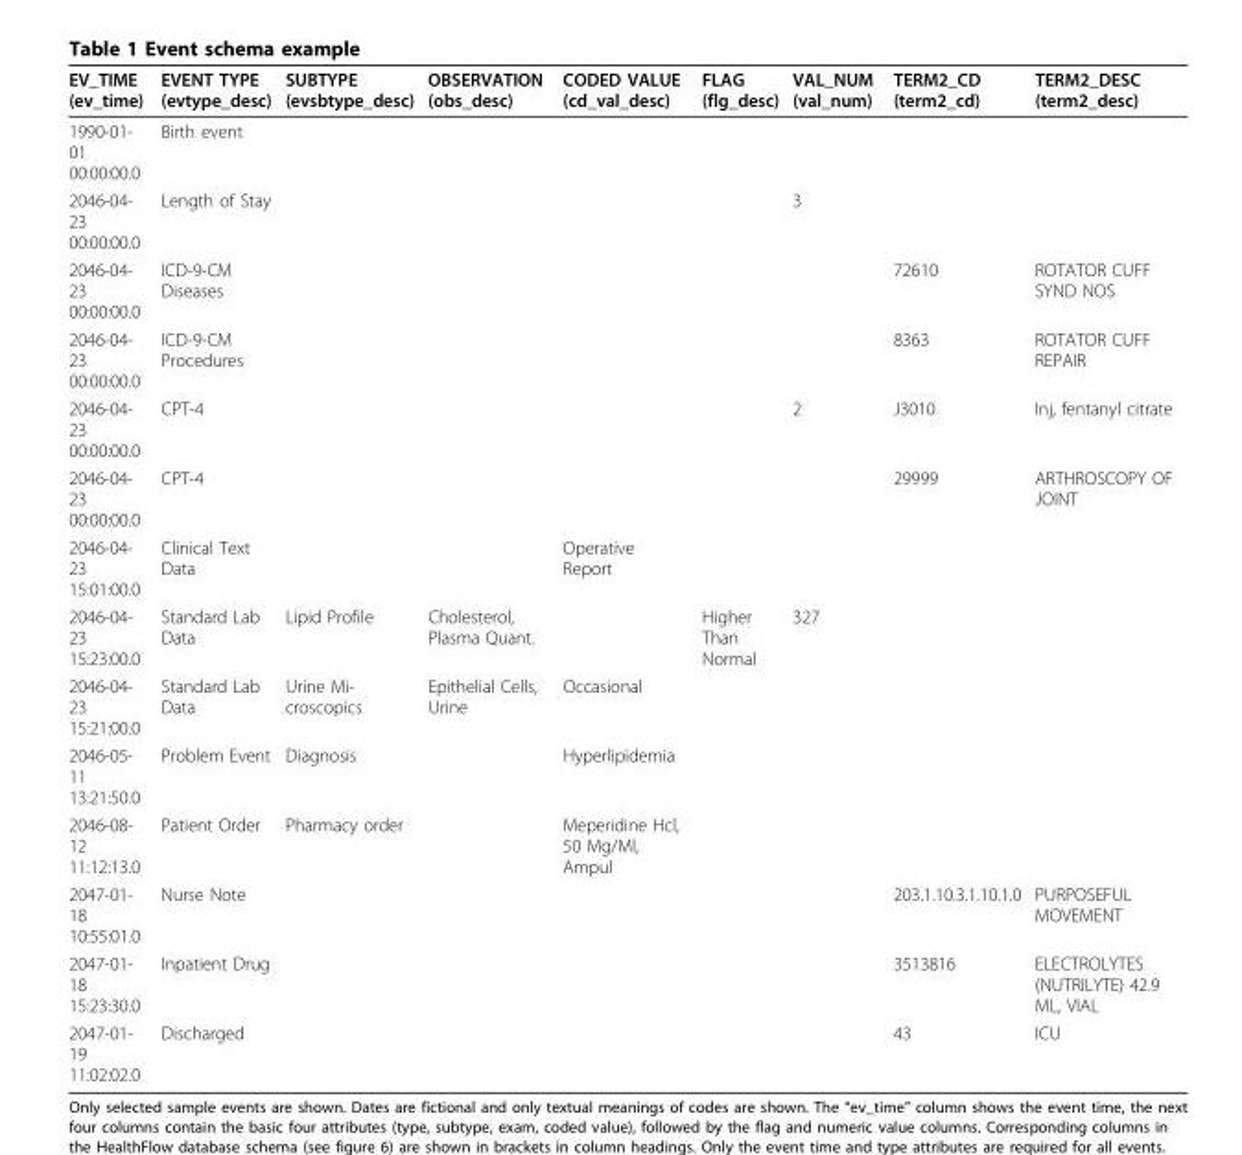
<table><thead><tr><td>EV_TIME (ev_time)</td><td>EVENT TYPE (evtype_desc)</td><td>SUBTYPE (evsbtype_desc)</td><td>OBSERVATION (obs_desc)</td><td>CODED VALUE (cd_val_desc)</td><td>FLAG (flg_desc)</td><td>VAL_NUM (val_num)</td><td>TERM2_CD (term2_cd)</td><td>TERM2_DESC (term2_desc)</td></tr></thead><tbody><tr><td>1990-01- 01 00:00:00.0</td><td>Birth event</td><td></td><td></td><td></td><td></td><td></td><td></td><td></td></tr><tr><td>2046-04- 23 00:00:00.0</td><td>Length of Stay</td><td></td><td></td><td></td><td></td><td>3</td><td></td><td></td></tr><tr><td>2046-04- 23 00:00:00.0</td><td>ICD-9-CM Diseases</td><td></td><td></td><td></td><td></td><td></td><td>72610</td><td>ROTATOR CUFF SYND NOS</td></tr><tr><td>2046-04- 23 00:00:00.0</td><td>ICD-9-CM Procedures</td><td></td><td></td><td></td><td></td><td></td><td>8363</td><td>ROTATOR CUFF REPAIR</td></tr><tr><td>2046-04- 23 00:00:00.0</td><td>CPT-4</td><td></td><td></td><td></td><td></td><td>2</td><td>J3010</td><td>Inj, fentanyl citrate</td></tr><tr><td>2046-04- 23 00:00:00.0</td><td>CPT-4</td><td></td><td></td><td></td><td></td><td></td><td>29999</td><td>ARTHROSCOPY OF JOINT</td></tr><tr><td>2046-04- 23 15:01:00.0</td><td>Clinical Text Data</td><td></td><td></td><td>Operative Report</td><td></td><td></td><td></td><td></td></tr><tr><td>2046-04- 23 15:23:00.0</td><td>Standard Lab Data</td><td>Lipid Profile</td><td>Cholesterol, Plasma Quant.</td><td></td><td>Higher Than Normal</td><td>327</td><td></td><td></td></tr><tr><td>2046-04- 23 15:21:00.0</td><td>Standard Lab Data</td><td>Urine Mi- croscopics</td><td>Epithelial Cells, Urine</td><td>Occasional</td><td></td><td></td><td></td><td></td></tr><tr><td>2046-05- 11 13:21:50.0</td><td>Problem Event</td><td>Diagnosis</td><td></td><td>Hyperlipidemia</td><td></td><td></td><td></td><td></td></tr><tr><td>2046-08- 12 11:12:13.0</td><td>Patient Order</td><td>Pharmacy order</td><td></td><td>Meperidine Hcl, 50 Mg/Ml, Ampul</td><td></td><td></td><td></td><td></td></tr><tr><td>2047-01- 18 10:55:01.0</td><td>Nurse Note</td><td></td><td></td><td></td><td></td><td></td><td>203.1.10.3.1.10.1.0</td><td>PURPOSEFUL MOVEMENT</td></tr><tr><td>2047-01- 18 15:23:30.0</td><td>Inpatient Drug</td><td></td><td></td><td></td><td></td><td></td><td>3513816</td><td>ELECTROLYTES (NUTRILYTE) 42.9 ML, VIAL</td></tr><tr><td>2047-01- 19 11:02:02.0</td><td>Discharged</td><td></td><td></td><td></td><td></td><td></td><td>43</td><td>ICU</td></tr></tbody></table>